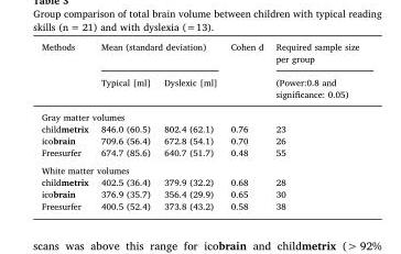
<table><thead><tr><td rowspan="2">Methods</td><td colspan="2">Mean (standard deviation)</td><td rowspan="2">Cohen d</td><td rowspan="2">Required sample size per group (Power:0.8 and significance: 0.05)</td></tr><tr><td>Typical [ml]</td><td>Dyslexic [ml]</td></tr></thead><tbody><tr><td colspan="5">Gray matter volumes</td></tr><tr><td>childmetrix</td><td>846.0 (60.5)</td><td>802.4 (62.1)</td><td>0.76</td><td>23</td></tr><tr><td>icobrain</td><td>709.6 (56.4)</td><td>672.8 (54.1)</td><td>0.70</td><td>26</td></tr><tr><td>Freesurfer</td><td>674.7 (85.6)</td><td>640.7 (51.7)</td><td>0.48</td><td>55</td></tr><tr><td colspan="5">White matter volumes</td></tr><tr><td>childmetrix</td><td>402.5 (36.4)</td><td>379.9 (32.2)</td><td>0.68</td><td>28</td></tr><tr><td>icobrain</td><td>376.9 (35.7)</td><td>356.4 (29.9)</td><td>0.65</td><td>30</td></tr><tr><td>Freesurfer</td><td>400.5 (52.4)</td><td>373.8 (43.2)</td><td>0.58</td><td>38</td></tr></tbody></table>